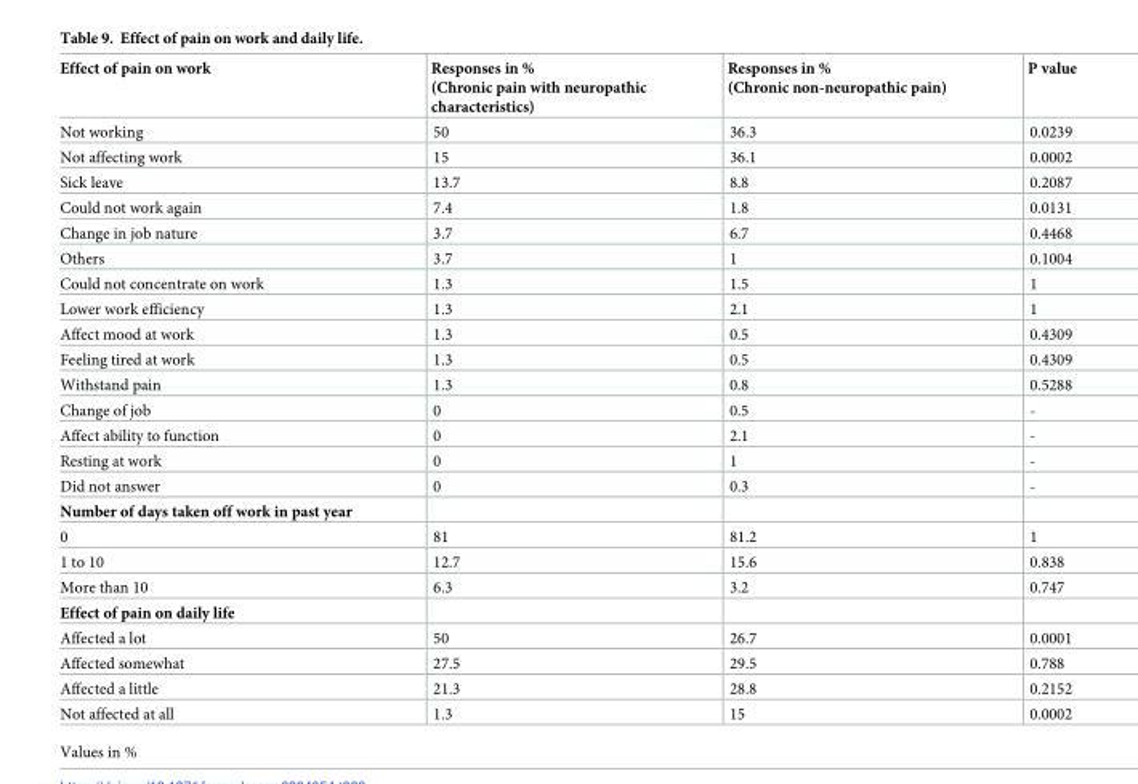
<table><thead><tr><td>Effect of pain on work</td><td>Responses in % (Chronic pain with neuropathic characteristics)</td><td>Responses in % (Chronic non-neuropathic pain)</td><td>P value</td></tr></thead><tbody><tr><td>Not working</td><td>50</td><td>36.3</td><td>0.0239</td></tr><tr><td>Not affecting work</td><td>15</td><td>36.1</td><td>0.0002</td></tr><tr><td>Sick leave</td><td>13.7</td><td>8.8</td><td>0.2087</td></tr><tr><td>Could not work again</td><td>7.4</td><td>1.8</td><td>0.0131</td></tr><tr><td>Change in job nature</td><td>3.7</td><td>6.7</td><td>0.4468</td></tr><tr><td>Others</td><td>3.7</td><td>1</td><td>0.1004</td></tr><tr><td>Could not concentrate on work</td><td>1.3</td><td>1.5</td><td>1</td></tr><tr><td>Lower work efficiency</td><td>1.3</td><td>2.1</td><td>1</td></tr><tr><td>Affect mood at work</td><td>1.3</td><td>0.5</td><td>0.4309</td></tr><tr><td>Feeling tired at work</td><td>1.3</td><td>0.5</td><td>0.4309</td></tr><tr><td>Withstand pain</td><td>1.3</td><td>0.8</td><td>0.5288</td></tr><tr><td>Change of job</td><td>0</td><td>0.5</td><td>-</td></tr><tr><td>Affect ability to function</td><td>0</td><td>2.1</td><td>-</td></tr><tr><td>Resting at work</td><td>0</td><td>1</td><td>-</td></tr><tr><td>Did not answer</td><td>0</td><td>0.3</td><td>-</td></tr><tr><td colspan="4">Number of days taken off work in past year</td></tr><tr><td>0</td><td>81</td><td>81.2</td><td>1</td></tr><tr><td>1 to 10</td><td>12.7</td><td>15.6</td><td>0.838</td></tr><tr><td>More than 10</td><td>6.3</td><td>3.2</td><td>0.747</td></tr><tr><td colspan="4">Effect of pain on daily life</td></tr><tr><td>Affected a lot</td><td>50</td><td>26.7</td><td>0.0001</td></tr><tr><td>Affected somewhat</td><td>27.5</td><td>29.5</td><td>0.788</td></tr><tr><td>Affected a little</td><td>21.3</td><td>28.8</td><td>0.2152</td></tr><tr><td>Not affected at all</td><td>1.3</td><td>15</td><td>0.0002</td></tr></tbody></table>